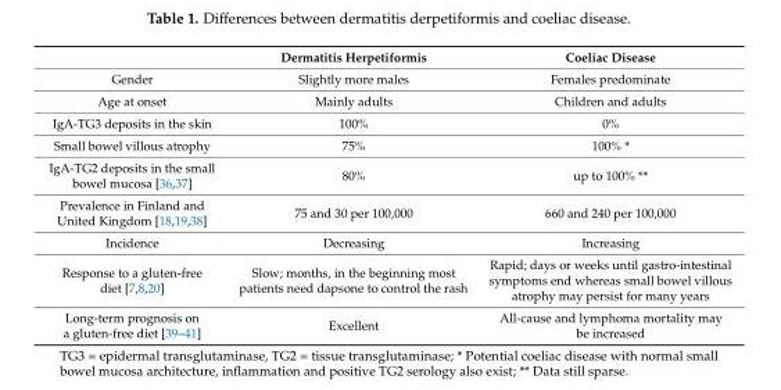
<table><thead><tr><td></td><td>Dermatitis Herpetiformis</td><td>Coeliac Disease</td></tr></thead><tbody><tr><td>Gender</td><td>Slightly more males</td><td>Females predominate</td></tr><tr><td>Age at onset</td><td>Mainly adults</td><td>Children and adults</td></tr><tr><td>IgA-TG3 deposits in the skin</td><td>100%</td><td>0%</td></tr><tr><td>Small bowel villous atrophy</td><td>75%</td><td>100% *</td></tr><tr><td>IgA-TG2 deposits in the small bowel mucosa [36,37]</td><td>80%</td><td>up to 100% **</td></tr><tr><td>Prevalence in Finland and United Kingdom [18,19,38]</td><td>75 and 30 per 100,000</td><td>660 and 240 per 100,000</td></tr><tr><td>Incidence</td><td>Decreasing</td><td>Increasing</td></tr><tr><td>Response to a gluten-free diet [7,8,20]</td><td>Slow; months, in the beginning most patients need dapsone to control the rash</td><td>Rapid; days or weeks until gastro-intestinal symptoms end whereas small bowel villous atrophy may persist for many years</td></tr><tr><td>Long-term prognosis on a gluten-free diet [39–41]</td><td>Excellent</td><td>All-cause and lymphoma mortality may be increased</td></tr></tbody></table>